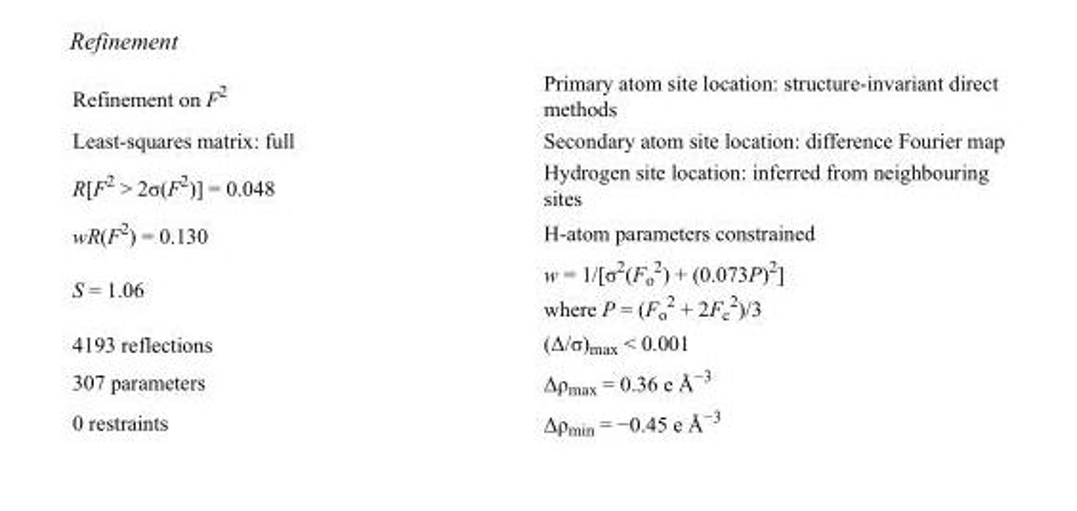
<table><tbody><tr><td>Refinement on F<sup>2</sup></td><td>Primary atom site location: structure-invariant direct methods</td></tr><tr><td>Least-squares matrix: full</td><td>Secondary atom site location: difference Fourier map</td></tr><tr><td>R[F<sup>2</sup> &gt; 2σ(F<sup>2</sup>)] = 0.048</td><td>Hydrogen site location: inferred from neighbouring sites</td></tr><tr><td>wR(F<sup>2</sup>) = 0.130</td><td>H-atom parameters constrained</td></tr><tr><td>S = 1.06</td><td>w = 1/[σ<sup>2</sup>(F<sub>o</sub> <sup>2</sup>) + (0.073P)<sup>2</sup>] where P = (F<sub>o</sub> <sup>2</sup> + 2F<sub>c</sub> <sup>2</sup>)/3</td></tr><tr><td>4193 reflections</td><td>(Δ/σ)<sub>max</sub> &lt; 0.001</td></tr><tr><td>307 parameters</td><td>Δρ<sub>max</sub> = 0.36 e Å<sup>−3</sup></td></tr><tr><td>0 restraints</td><td>Δρ<sub>min</sub> = −0.45 e Å<sup>−3</sup></td></tr></tbody></table>